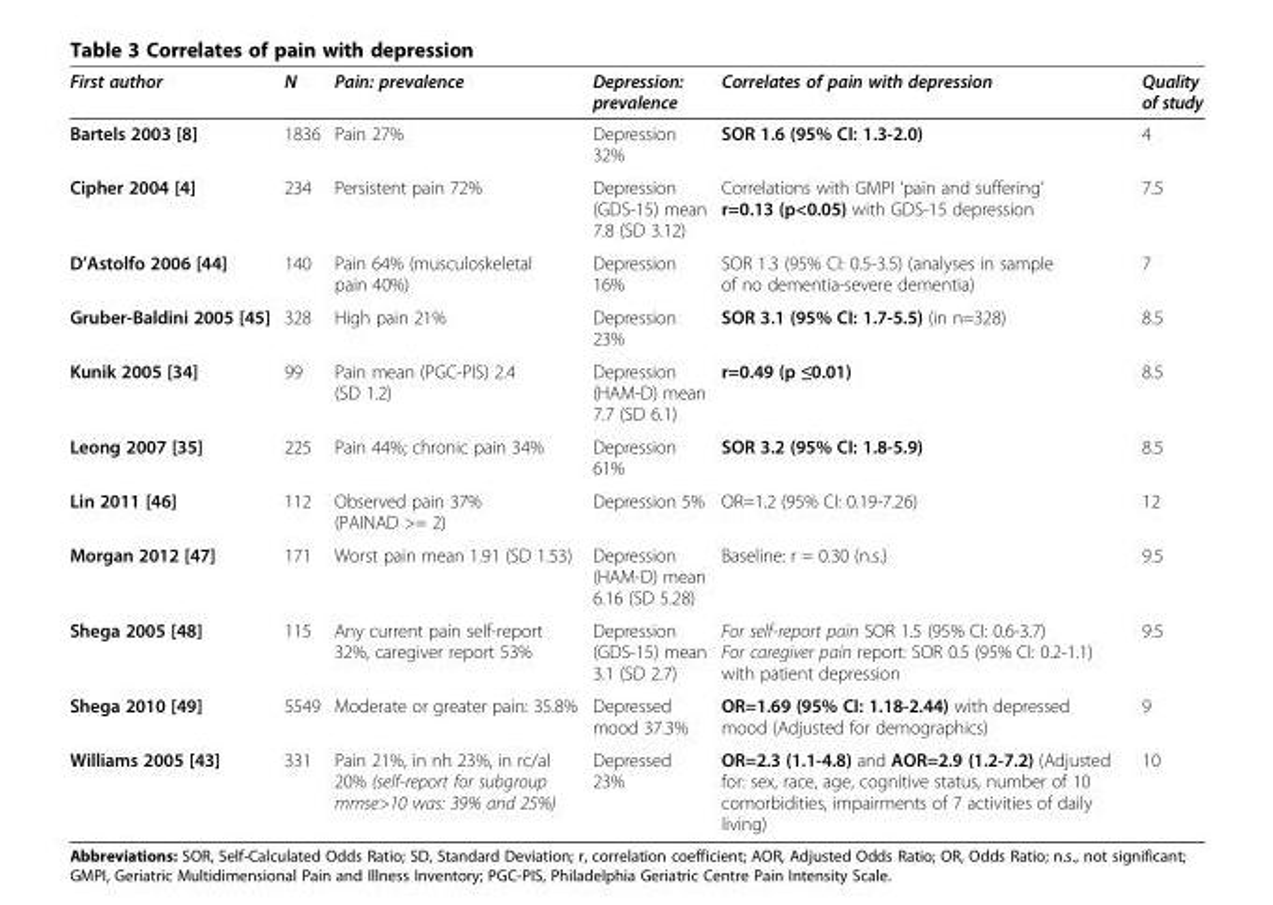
<table><thead><tr><td>First author</td><td>N</td><td>Pain: prevalence</td><td>Depression: prevalence</td><td>Correlates of pain with depression</td><td>Quality of study</td></tr></thead><tbody><tr><td>Bartels 2003 [8]</td><td>1836</td><td>Pain 27%</td><td>Depression 32%</td><td>SOR 1.6 (95% CI: 1.3-2.0)</td><td>4</td></tr><tr><td>Cipher 2004 [4]</td><td>234</td><td>Persistent pain 72%</td><td>Depression (GDS-15) mean 7.8 (SD 3.12)</td><td>Correlations with GMPI ‘pain and suffering’ r=0.13 (p&lt;0.05) with GDS-15 depression</td><td>7.5</td></tr><tr><td>D’Astolfo 2006 [44]</td><td>140</td><td>Pain 64% (musculoskeletal pain 40%)</td><td>Depression 16%</td><td>SOR 1.3 (95% CI: 0.5-3.5) (analyses in sample of no dementia-severe dementia)</td><td>7</td></tr><tr><td>Gruber-Baldini 2005 [45]</td><td>328</td><td>High pain 21%</td><td>Depression 23%</td><td>SOR 3.1 (95% CI: 1.7-5.5) (in n=328)</td><td>8.5</td></tr><tr><td>Kunik 2005 [34]</td><td>99</td><td>Pain mean (PGC-PIS) 2.4 (SD 1.2)</td><td>Depression (HAM-D) mean 7.7 (SD 6.1)</td><td>r=0.49 (p ≤0.01)</td><td>8.5</td></tr><tr><td>Leong 2007 [35]</td><td>225</td><td>Pain 44%; chronic pain 34%</td><td>Depression 61%</td><td>SOR 3.2 (95% CI: 1.8-5.9)</td><td>8.5</td></tr><tr><td>Lin 2011 [46]</td><td>112</td><td>Observed pain 37% (PAINAD &gt;= 2)</td><td>Depression 5%</td><td>OR=1.2 (95% CI: 0.19-7.26)</td><td>12</td></tr><tr><td>Morgan 2012 [47]</td><td>171</td><td>Worst pain mean 1.91 (SD 1.53)</td><td>Depression (HAM-D) mean 6.16 (SD 5.28)</td><td>Baseline: r = 0.30 (n.s.)</td><td>9.5</td></tr><tr><td>Shega 2005 [48]</td><td>115</td><td>Any current pain self-report 32%, caregiver report 53%</td><td>Depression (GDS-15) mean 3.1 (SD 2.7)</td><td>For self-report pain SOR 1.5 (95% CI: 0.6-3.7) For caregiver pain report: SOR 0.5 (95% CI: 0.2-1.1) with patient depression</td><td>9.5</td></tr><tr><td>Shega 2010 [49]</td><td>5549</td><td>Moderate or greater pain: 35.8%</td><td>Depressed mood 37.3%</td><td>OR=1.69 (95% CI: 1.18-2.44) with depressed mood (Adjusted for demographics)</td><td>9</td></tr><tr><td>Williams 2005 [43]</td><td>331</td><td>Pain 21%, in nh 23%, in rc/al 20% (self-report for subgroup mmse&gt;10 was: 39% and 25%)</td><td>Depressed 23%</td><td>OR=2.3 (1.1-4.8) and AOR=2.9 (1.2-7.2) (Adjusted for: sex, race, age, cognitive status, number of 10 comorbidities, impairments of 7 activities of daily living)</td><td>10</td></tr></tbody></table>